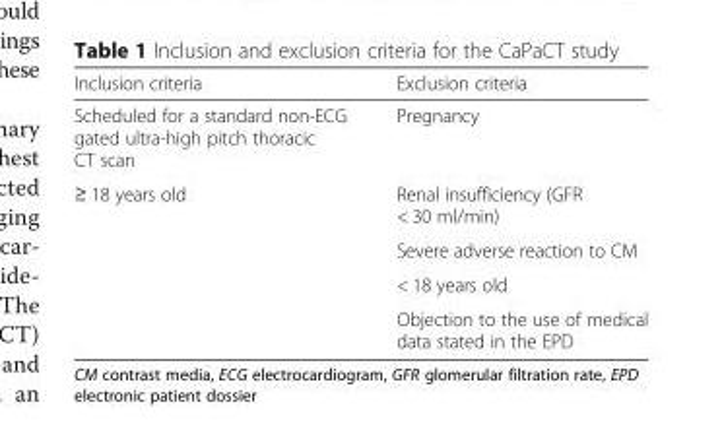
<table><thead><tr><td>Inclusion criteria</td><td>Exclusion criteria</td></tr></thead><tbody><tr><td>Scheduled for a standard non-ECG gated ultra-high pitch thoracic CT scan</td><td>Pregnancy</td></tr><tr><td rowspan="4">≥ 18 years old</td><td>Renal insufficiency (GFR &lt; 30 ml/min)</td></tr><tr><td>Severe adverse reaction to CM</td></tr><tr><td>&lt; 18 years old</td></tr><tr><td>Objection to the use of medical data stated in the EPD</td></tr></tbody></table>